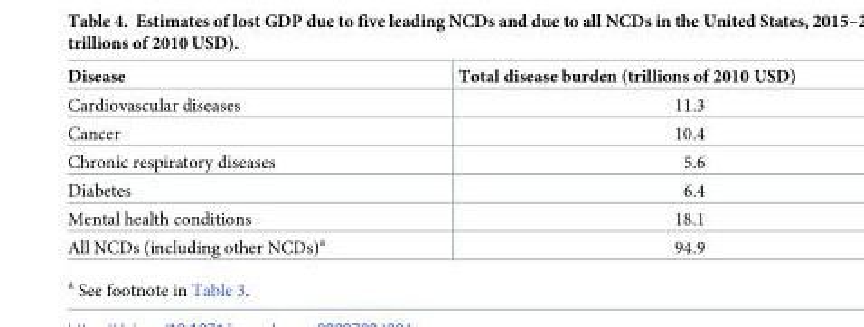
<table><thead><tr><td>Disease</td><td>Total disease burden (trillions of 2010 USD)</td></tr></thead><tbody><tr><td>Cardiovascular diseases</td><td>11.3</td></tr><tr><td>Cancer</td><td>10.4</td></tr><tr><td>Chronic respiratory diseases</td><td>5.6</td></tr><tr><td>Diabetes</td><td>6.4</td></tr><tr><td>Mental health conditions</td><td>18.1</td></tr><tr><td>All NCDs (including other NCDs)<sup>a</sup></td><td>94.9</td></tr></tbody></table>